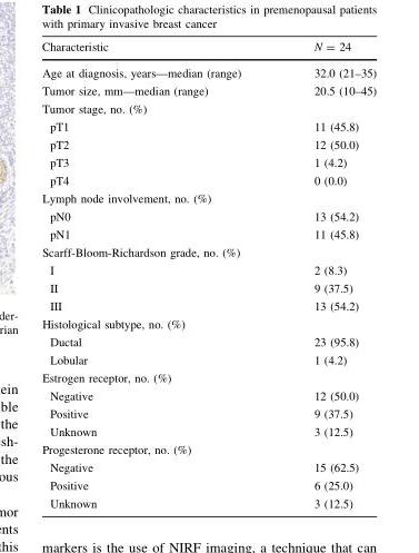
<table><thead><tr><td>Characteristic</td><td>N = 24</td></tr></thead><tbody><tr><td>Age at diagnosis, years—median (range)</td><td>32.0 (21–35)</td></tr><tr><td>Tumor size, mm—median (range)</td><td>20.5 (10–45)</td></tr><tr><td colspan="2">Tumor stage, no. (%)</td></tr><tr><td>pT1</td><td>11 (45.8)</td></tr><tr><td>pT2</td><td>12 (50.0)</td></tr><tr><td>pT3</td><td>1 (4.2)</td></tr><tr><td>pT4</td><td>0 (0.0)</td></tr><tr><td colspan="2">Lymph node involvement, no. (%)</td></tr><tr><td>pN0</td><td>13 (54.2)</td></tr><tr><td>pN1</td><td>11 (45.8)</td></tr><tr><td colspan="2">Scarff-Bloom-Richardson grade, no. (%)</td></tr><tr><td>I</td><td>2 (8.3)</td></tr><tr><td>II</td><td>9 (37.5)</td></tr><tr><td>III</td><td>13 (54.2)</td></tr><tr><td colspan="2">Histological subtype, no. (%)</td></tr><tr><td>Ductal</td><td>23 (95.8)</td></tr><tr><td>Lobular</td><td>1 (4.2)</td></tr><tr><td colspan="2">Estrogen receptor, no. (%)</td></tr><tr><td>Negative</td><td>12 (50.0)</td></tr><tr><td>Positive</td><td>9 (37.5)</td></tr><tr><td>Unknown</td><td>3 (12.5)</td></tr><tr><td colspan="2">Progesterone receptor, no. (%)</td></tr><tr><td>Negative</td><td>15 (62.5)</td></tr><tr><td>Positive</td><td>6 (25.0)</td></tr><tr><td>Unknown</td><td>3 (12.5)</td></tr></tbody></table>